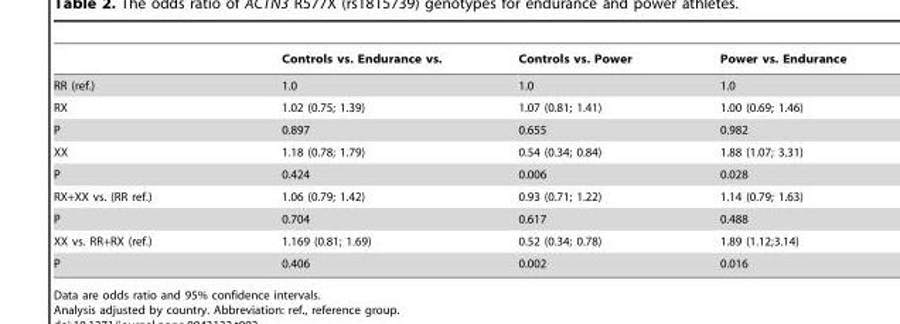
<table><thead><tr><td></td><td>Controls vs. Endurance vs.</td><td>Controls vs. Power</td><td>Power vs. Endurance</td></tr></thead><tbody><tr><td>RR (ref.)</td><td>1.0</td><td>1.0</td><td>1.0</td></tr><tr><td>RX</td><td>1.02 (0.75; 1.39)</td><td>1.07 (0.81; 1.41)</td><td>1.00 (0.69; 1.46)</td></tr><tr><td>P</td><td>0.897</td><td>0.655</td><td>0.982</td></tr><tr><td>XX</td><td>1.18 (0.78; 1.79)</td><td>0.54 (0.34; 0.84)</td><td>1.88 (1.07; 3.31)</td></tr><tr><td>P</td><td>0.424</td><td>0.006</td><td>0.028</td></tr><tr><td>RX+XX vs. (RR ref.)</td><td>1.06 (0.79; 1.42)</td><td>0.93 (0.71; 1.22)</td><td>1.14 (0.79; 1.63)</td></tr><tr><td>P</td><td>0.704</td><td>0.617</td><td>0.488</td></tr><tr><td>XX vs. RR+RX (ref.)</td><td>1.169 (0.81; 1.69)</td><td>0.52 (0.34; 0.78)</td><td>1.89 (1.12;3.14)</td></tr><tr><td>P</td><td>0.406</td><td>0.002</td><td>0.016</td></tr></tbody></table>